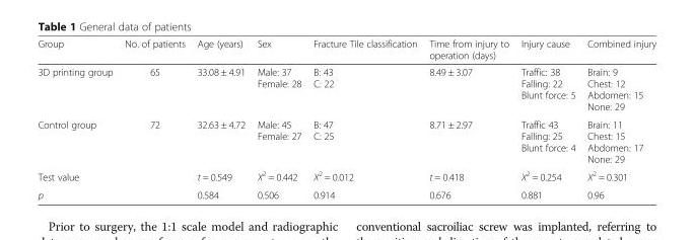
<table><thead><tr><td>Group</td><td>No. of patients</td><td>Age (years)</td><td>Sex</td><td>Fracture Tile classification</td><td>Time from injury to operation (days)</td><td>Injury cause</td><td>Combined injury</td></tr></thead><tbody><tr><td>3D printing group</td><td>65</td><td>33.08 ± 4.91</td><td>Male: 37 Female: 28</td><td>B: 43 C: 22</td><td>8.49 ± 3.07</td><td>Traffic: 38 Falling: 22 Blunt force: 5</td><td>Brain: 9 Chest: 12 Abdomen: 15 None: 29</td></tr><tr><td>Control group</td><td>72</td><td>32.63 ± 4.72</td><td>Male: 45 Female: 27</td><td>B: 47 C: 25</td><td>8.71 ± 2.97</td><td>Traffic 43 Falling: 25 Blunt force: 4</td><td>Brain: 11 Chest: 15 Abdomen: 17 None: 29</td></tr><tr><td>Test value</td><td></td><td>t = 0.549</td><td>Χ<sup>2</sup> = 0.442</td><td>Χ<sup>2</sup> = 0.012</td><td>t = 0.418</td><td>Χ<sup>2</sup> = 0.254</td><td>Χ<sup>2</sup> = 0.301</td></tr><tr><td>p</td><td></td><td>0.584</td><td>0.506</td><td>0.914</td><td>0.676</td><td>0.881</td><td>0.96</td></tr></tbody></table>